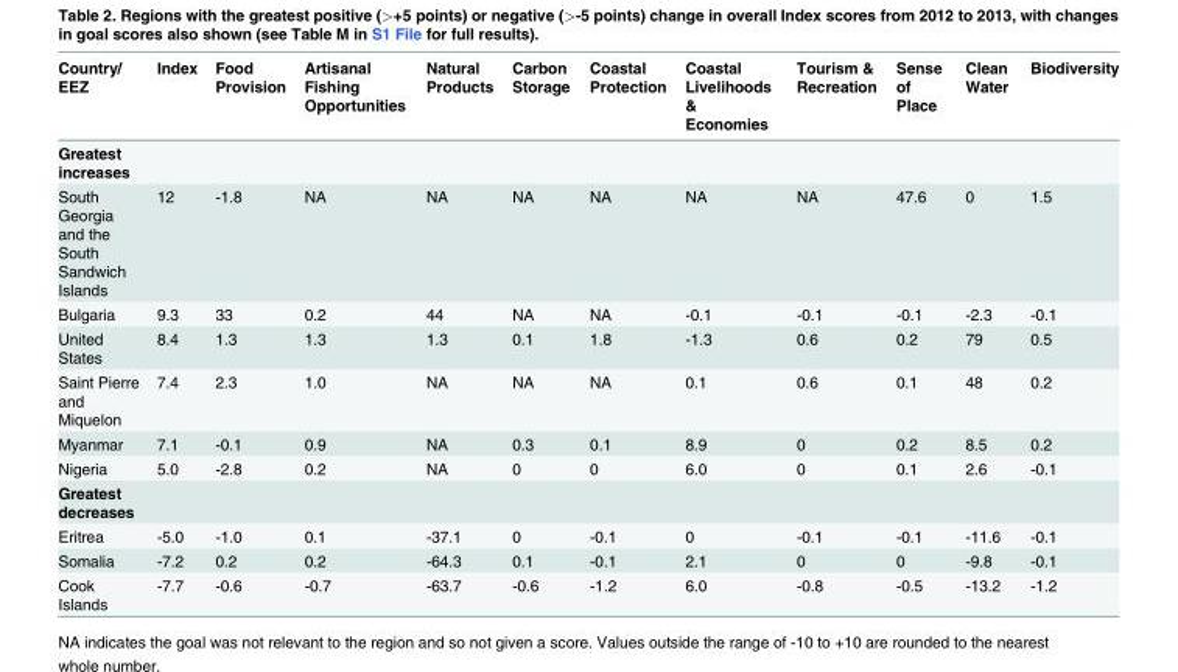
<table><thead><tr><td>Country/ EEZ</td><td>Index</td><td>Food Provision</td><td>Artisanal Fishing Opportunities</td><td>Natural Products</td><td>Carbon Storage</td><td>Coastal Protection</td><td>Coastal Livelihoods &amp; Economies</td><td>Tourism &amp; Recreation</td><td>Sense of Place</td><td>Clean Water</td><td>Biodiversity</td></tr></thead><tbody><tr><td colspan="12">Greatest increases</td></tr><tr><td>South Georgia and the South Sandwich Islands</td><td>12</td><td>-1.8</td><td>NA</td><td>NA</td><td>NA</td><td>NA</td><td>NA</td><td>NA</td><td>47.6</td><td>0</td><td>1.5</td></tr><tr><td>Bulgaria</td><td>9.3</td><td>33</td><td>0.2</td><td>44</td><td>NA</td><td>NA</td><td>-0.1</td><td>-0.1</td><td>-0.1</td><td>-2.3</td><td>-0.1</td></tr><tr><td>United States</td><td>8.4</td><td>1.3</td><td>1.3</td><td>1.3</td><td>0.1</td><td>1.8</td><td>-1.3</td><td>0.6</td><td>0.2</td><td>79</td><td>0.5</td></tr><tr><td>Saint Pierre and Miquelon</td><td>7.4</td><td>2.3</td><td>1.0</td><td>NA</td><td>NA</td><td>NA</td><td>0.1</td><td>0.6</td><td>0.1</td><td>48</td><td>0.2</td></tr><tr><td>Myanmar</td><td>7.1</td><td>-0.1</td><td>0.9</td><td>NA</td><td>0.3</td><td>0.1</td><td>8.9</td><td>0</td><td>0.2</td><td>8.5</td><td>0.2</td></tr><tr><td>Nigeria</td><td>5.0</td><td>-2.8</td><td>0.2</td><td>NA</td><td>0</td><td>0</td><td>6.0</td><td>0</td><td>0.1</td><td>2.6</td><td>-0.1</td></tr><tr><td colspan="12">Greatest decreases</td></tr><tr><td>Eritrea</td><td>-5.0</td><td>-1.0</td><td>0.1</td><td>-37.1</td><td>0</td><td>-0.1</td><td>0</td><td>-0.1</td><td>-0.1</td><td>-11.6</td><td>-0.1</td></tr><tr><td>Somalia</td><td>-7.2</td><td>0.2</td><td>0.2</td><td>-64.3</td><td>0.1</td><td>-0.1</td><td>2.1</td><td>0</td><td>0</td><td>-9.8</td><td>-0.1</td></tr><tr><td>Cook Islands</td><td>-7.7</td><td>-0.6</td><td>-0.7</td><td>-63.7</td><td>-0.6</td><td>-1.2</td><td>6.0</td><td>-0.8</td><td>-0.5</td><td>-13.2</td><td>-1.2</td></tr></tbody></table>